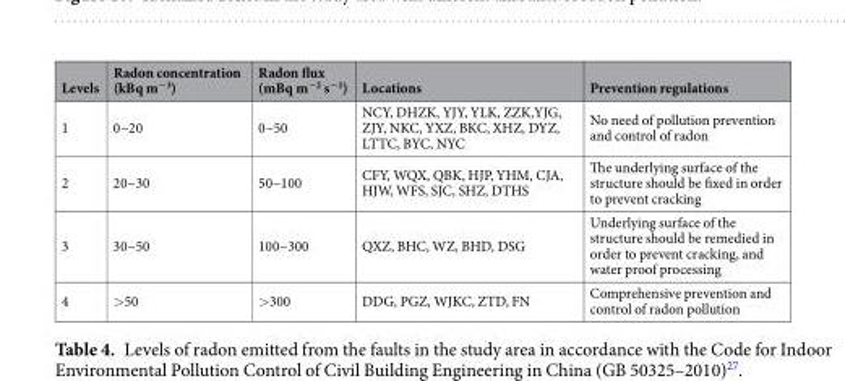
<table><thead><tr><td>Levels</td><td>Radon concentration (kBq m<sup>−3</sup>)</td><td>Radon flux (mBq m<sup>−2</sup> s<sup>−1</sup>)</td><td>Locations</td><td>Prevention regulations</td></tr></thead><tbody><tr><td>1</td><td>0~20</td><td>0~50</td><td>NCY, DHZK, YJY, YLK, ZZK,YJG, ZJY, NKC, YXZ, BKC, XHZ, DYZ, LTTC, BYC, NYC</td><td>No need of pollution prevention and control of radon</td></tr><tr><td>2</td><td>20~30</td><td>50~100</td><td>CFY, WQX, QBK, HJP, YHM, CJA, HJW, WFS, SJC, SHZ, DTHS</td><td>The underlying surface of the structure should be fixed in order to prevent cracking</td></tr><tr><td>3</td><td>30~50</td><td>100~300</td><td>QXZ, BHC, WZ, BHD, DSG</td><td>Underlying surface of the structure should be remedied in order to prevent cracking, and water proof processing</td></tr><tr><td>4</td><td>&gt;50</td><td>&gt;300</td><td>DDG, PGZ, WJKC, ZTD, FN</td><td>Comprehensive prevention and control of radon pollution</td></tr></tbody></table>